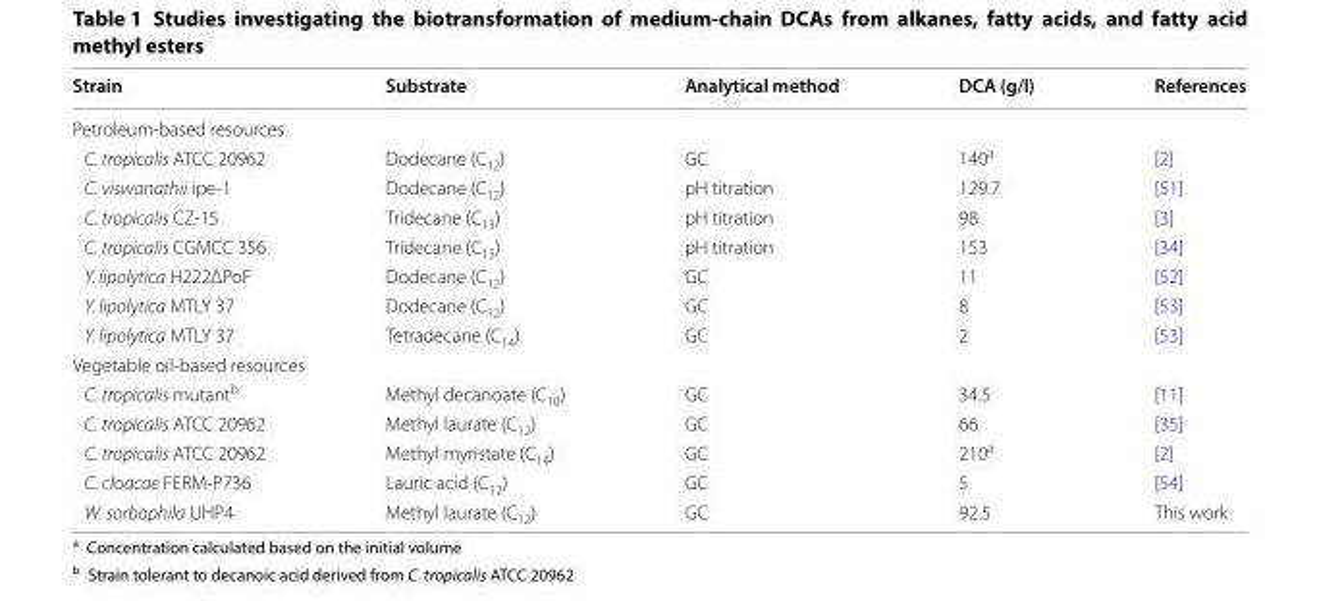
<table><thead><tr><td>Strain</td><td>Substrate</td><td>Analytical method</td><td>DCA (g/l)</td><td>References</td></tr></thead><tbody><tr><td colspan="5">Petroleum‑based resources</td></tr><tr><td>C. tropicalis ATCC 20962</td><td>Dodecane (C<sub>12</sub>)</td><td>GC</td><td>140<sup>a</sup></td><td>[2]</td></tr><tr><td>C. viswanathii ipe‑1</td><td>Dodecane (C<sub>12</sub>)</td><td>pH titration</td><td>129.7</td><td>[51]</td></tr><tr><td>C. tropicalis CZ‑15</td><td>Tridecane (C<sub>13</sub>)</td><td>pH titration</td><td>98</td><td>[3]</td></tr><tr><td>C. tropicalis CGMCC 356</td><td>Tridecane (C<sub>13</sub>)</td><td>pH titration</td><td>153</td><td>[34]</td></tr><tr><td>Y. lipolytica H222ΔPoF</td><td>Dodecane (C<sub>12</sub>)</td><td>GC</td><td>11</td><td>[52]</td></tr><tr><td>Y. lipolytica MTLY 37</td><td>Dodecane (C<sub>12</sub>)</td><td>GC</td><td>8</td><td>[53]</td></tr><tr><td>Y. lipolytica MTLY 37</td><td>Tetradecane (C<sub>14</sub>)</td><td>GC</td><td>2</td><td>[53]</td></tr><tr><td colspan="5">Vegetable oil‑based resources</td></tr><tr><td>C. tropicalis mutant<sup>b</sup></td><td>Methyl decanoate (C<sub>10</sub>)</td><td>GC</td><td>34.5</td><td>[11]</td></tr><tr><td>C. tropicalis ATCC 20962</td><td>Methyl laurate (C<sub>12</sub>)</td><td>GC</td><td>66</td><td>[35]</td></tr><tr><td>C. tropicalis ATCC 20962</td><td>Methyl myristate (C<sub>14</sub>)</td><td>GC</td><td>210<sup>a</sup></td><td>[2]</td></tr><tr><td>C. cloacae FERM‑P736</td><td>Lauric acid (C<sub>12</sub>)</td><td>GC</td><td>5</td><td>[54]</td></tr><tr><td>W. sorbophila UHP4</td><td>Methyl laurate (C<sub>12</sub>)</td><td>GC</td><td>92.5</td><td>This work</td></tr></tbody></table>